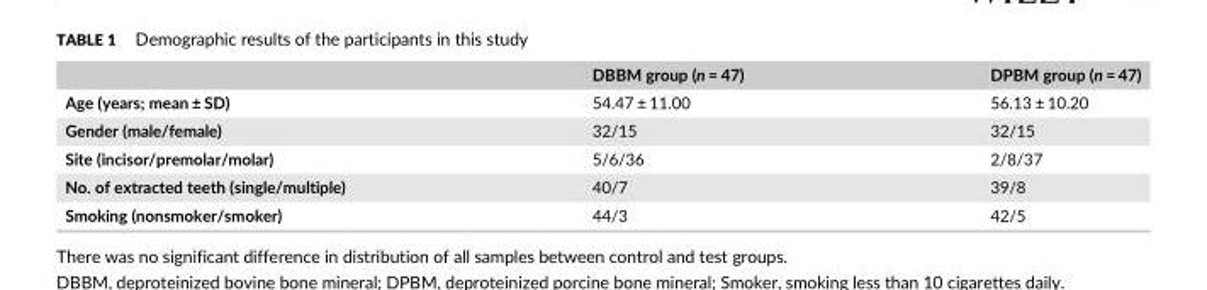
<table><thead><tr><td></td><td>DBBM group (n = 47)</td><td>DPBM group (n = 47)</td></tr></thead><tbody><tr><td>Age (years; mean ± SD)</td><td>54.47 ± 11.00</td><td>56.13 ± 10.20</td></tr><tr><td>Gender (male/female)</td><td>32/15</td><td>32/15</td></tr><tr><td>Site (incisor/premolar/molar)</td><td>5/6/36</td><td>2/8/37</td></tr><tr><td>No. of extracted teeth (single/multiple)</td><td>40/7</td><td>39/8</td></tr><tr><td>Smoking (nonsmoker/smoker)</td><td>44/3</td><td>42/5</td></tr></tbody></table>